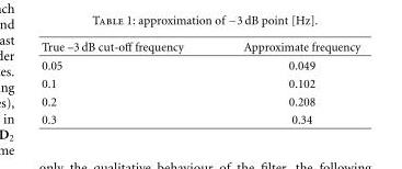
<table><thead><tr><td>True –3 dB cut-off frequency</td><td>Approximate frequency</td></tr></thead><tbody><tr><td>0.05</td><td>0.049</td></tr><tr><td>0.1</td><td>0.102</td></tr><tr><td>0.2</td><td>0.208</td></tr><tr><td>0.3</td><td>0.34</td></tr></tbody></table>